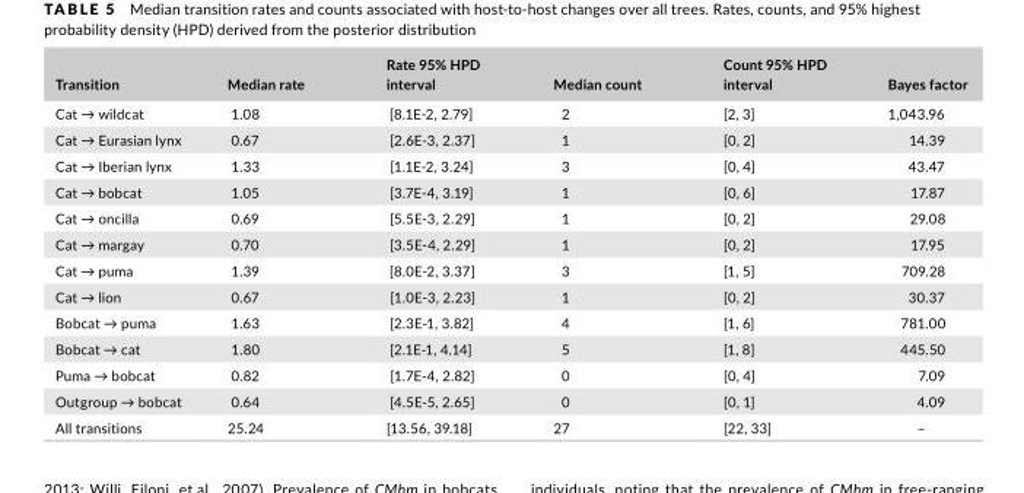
<table><thead><tr><td>Transition</td><td>Median rate</td><td>Rate 95% HPD interval</td><td>Median count</td><td>Count 95% HPD interval</td><td>Bayes factor</td></tr></thead><tbody><tr><td>Cat → wildcat</td><td>1.08</td><td>[8.1E- 2, 2.79]</td><td>2</td><td>[2, 3]</td><td>1,043.96</td></tr><tr><td>Cat → Eurasian lynx</td><td>0.67</td><td>[2.6E- 3, 2.37]</td><td>1</td><td>[0, 2]</td><td>14.39</td></tr><tr><td>Cat → Iberian lynx</td><td>1.33</td><td>[1.1E- 2, 3.24]</td><td>3</td><td>[0, 4]</td><td>43.47</td></tr><tr><td>Cat → bobcat</td><td>1.05</td><td>[3.7E- 4, 3.19]</td><td>1</td><td>[0, 6]</td><td>17.87</td></tr><tr><td>Cat → oncilla</td><td>0.69</td><td>[5.5E- 3, 2.29]</td><td>1</td><td>[0, 2]</td><td>29.08</td></tr><tr><td>Cat → margay</td><td>0.70</td><td>[3.5E- 4, 2.29]</td><td>1</td><td>[0, 2]</td><td>17.95</td></tr><tr><td>Cat → puma</td><td>1.39</td><td>[8.0E- 2, 3.37]</td><td>3</td><td>[1, 5]</td><td>709.28</td></tr><tr><td>Cat → lion</td><td>0.67</td><td>[1.0E- 3, 2.23]</td><td>1</td><td>[0, 2]</td><td>30.37</td></tr><tr><td>Bobcat → puma</td><td>1.63</td><td>[2.3E- 1, 3.82]</td><td>4</td><td>[1, 6]</td><td>781.00</td></tr><tr><td>Bobcat → cat</td><td>1.80</td><td>[2.1E- 1, 4.14]</td><td>5</td><td>[1, 8]</td><td>445.50</td></tr><tr><td>Puma → bobcat</td><td>0.82</td><td>[1.7E- 4, 2.82]</td><td>0</td><td>[0, 4]</td><td>7.09</td></tr><tr><td>Outgroup → bobcat</td><td>0.64</td><td>[4.5E- 5, 2.65]</td><td>0</td><td>[0, 1]</td><td>4.09</td></tr><tr><td>All transitions</td><td>25.24</td><td>[13.56, 39.18]</td><td>27</td><td>[22, 33]</td><td>–</td></tr></tbody></table>